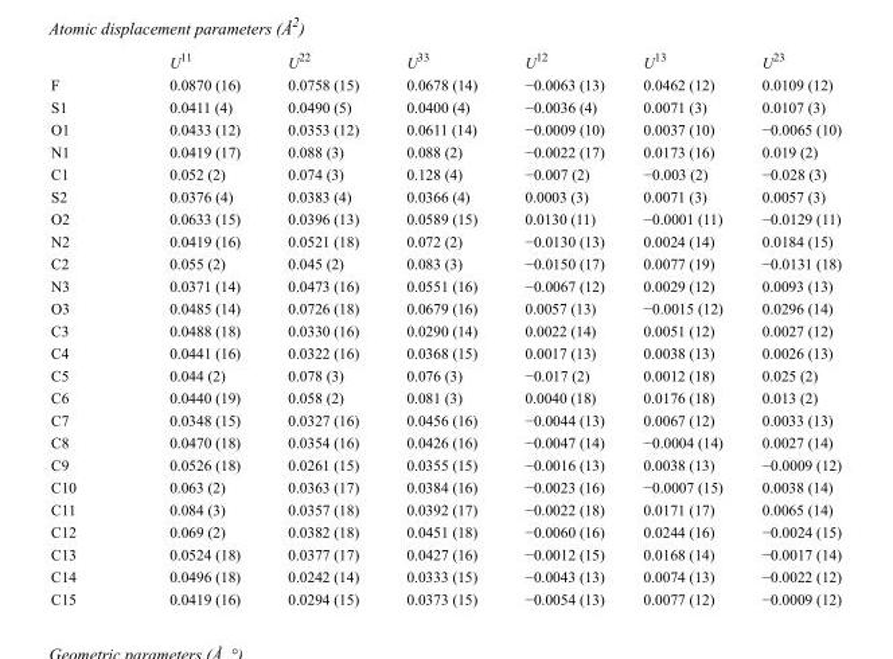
<table><thead><tr><td></td><td>U<sup>11</sup></td><td>U<sup>22</sup></td><td>U<sup>33</sup></td><td>U<sup>12</sup></td><td>U<sup>13</sup></td><td>U<sup>23</sup></td></tr></thead><tbody><tr><td>F</td><td>0.0870 (16)</td><td>0.0758 (15)</td><td>0.0678 (14)</td><td>−0.0063 (13)</td><td>0.0462 (12)</td><td>0.0109 (12)</td></tr><tr><td>S1</td><td>0.0411 (4)</td><td>0.0490 (5)</td><td>0.0400 (4)</td><td>−0.0036 (4)</td><td>0.0071 (3)</td><td>0.0107 (3)</td></tr><tr><td>O1</td><td>0.0433 (12)</td><td>0.0353 (12)</td><td>0.0611 (14)</td><td>−0.0009 (10)</td><td>0.0037 (10)</td><td>−0.0065 (10)</td></tr><tr><td>N1</td><td>0.0419 (17)</td><td>0.088 (3)</td><td>0.088 (2)</td><td>−0.0022 (17)</td><td>0.0173 (16)</td><td>0.019 (2)</td></tr><tr><td>C1</td><td>0.052 (2)</td><td>0.074 (3)</td><td>0.128 (4)</td><td>−0.007 (2)</td><td>−0.003 (2)</td><td>−0.028 (3)</td></tr><tr><td>S2</td><td>0.0376 (4)</td><td>0.0383 (4)</td><td>0.0366 (4)</td><td>0.0003 (3)</td><td>0.0071 (3)</td><td>0.0057 (3)</td></tr><tr><td>O2</td><td>0.0633 (15)</td><td>0.0396 (13)</td><td>0.0589 (15)</td><td>0.0130 (11)</td><td>−0.0001 (11)</td><td>−0.0129 (11)</td></tr><tr><td>N2</td><td>0.0419 (16)</td><td>0.0521 (18)</td><td>0.072 (2)</td><td>−0.0130 (13)</td><td>0.0024 (14)</td><td>0.0184 (15)</td></tr><tr><td>C2</td><td>0.055 (2)</td><td>0.045 (2)</td><td>0.083 (3)</td><td>−0.0150 (17)</td><td>0.0077 (19)</td><td>−0.0131 (18)</td></tr><tr><td>N3</td><td>0.0371 (14)</td><td>0.0473 (16)</td><td>0.0551 (16)</td><td>−0.0067 (12)</td><td>0.0029 (12)</td><td>0.0093 (13)</td></tr><tr><td>O3</td><td>0.0485 (14)</td><td>0.0726 (18)</td><td>0.0679 (16)</td><td>0.0057 (13)</td><td>−0.0015 (12)</td><td>0.0296 (14)</td></tr><tr><td>C3</td><td>0.0488 (18)</td><td>0.0330 (16)</td><td>0.0290 (14)</td><td>0.0022 (14)</td><td>0.0051 (12)</td><td>0.0027 (12)</td></tr><tr><td>C4</td><td>0.0441 (16)</td><td>0.0322 (16)</td><td>0.0368 (15)</td><td>0.0017 (13)</td><td>0.0038 (13)</td><td>0.0026 (13)</td></tr><tr><td>C5</td><td>0.044 (2)</td><td>0.078 (3)</td><td>0.076 (3)</td><td>−0.017 (2)</td><td>0.0012 (18)</td><td>0.025 (2)</td></tr><tr><td>C6</td><td>0.0440 (19)</td><td>0.058 (2)</td><td>0.081 (3)</td><td>0.0040 (18)</td><td>0.0176 (18)</td><td>0.013 (2)</td></tr><tr><td>C7</td><td>0.0348 (15)</td><td>0.0327 (16)</td><td>0.0456 (16)</td><td>−0.0044 (13)</td><td>0.0067 (12)</td><td>0.0033 (13)</td></tr><tr><td>C8</td><td>0.0470 (18)</td><td>0.0354 (16)</td><td>0.0426 (16)</td><td>−0.0047 (14)</td><td>−0.0004 (14)</td><td>0.0027 (14)</td></tr><tr><td>C9</td><td>0.0526 (18)</td><td>0.0261 (15)</td><td>0.0355 (15)</td><td>−0.0016 (13)</td><td>0.0038 (13)</td><td>−0.0009 (12)</td></tr><tr><td>C10</td><td>0.063 (2)</td><td>0.0363 (17)</td><td>0.0384 (16)</td><td>−0.0023 (16)</td><td>−0.0007 (15)</td><td>0.0038 (14)</td></tr><tr><td>C11</td><td>0.084 (3)</td><td>0.0357 (18)</td><td>0.0392 (17)</td><td>−0.0022 (18)</td><td>0.0171 (17)</td><td>0.0065 (14)</td></tr><tr><td>C12</td><td>0.069 (2)</td><td>0.0382 (18)</td><td>0.0451 (18)</td><td>−0.0060 (16)</td><td>0.0244 (16)</td><td>−0.0024 (15)</td></tr><tr><td>C13</td><td>0.0524 (18)</td><td>0.0377 (17)</td><td>0.0427 (16)</td><td>−0.0012 (15)</td><td>0.0168 (14)</td><td>−0.0017 (14)</td></tr><tr><td>C14</td><td>0.0496 (18)</td><td>0.0242 (14)</td><td>0.0333 (15)</td><td>−0.0043 (13)</td><td>0.0074 (13)</td><td>−0.0022 (12)</td></tr><tr><td>C15</td><td>0.0419 (16)</td><td>0.0294 (15)</td><td>0.0373 (15)</td><td>−0.0054 (13)</td><td>0.0077 (12)</td><td>−0.0009 (12)</td></tr></tbody></table>